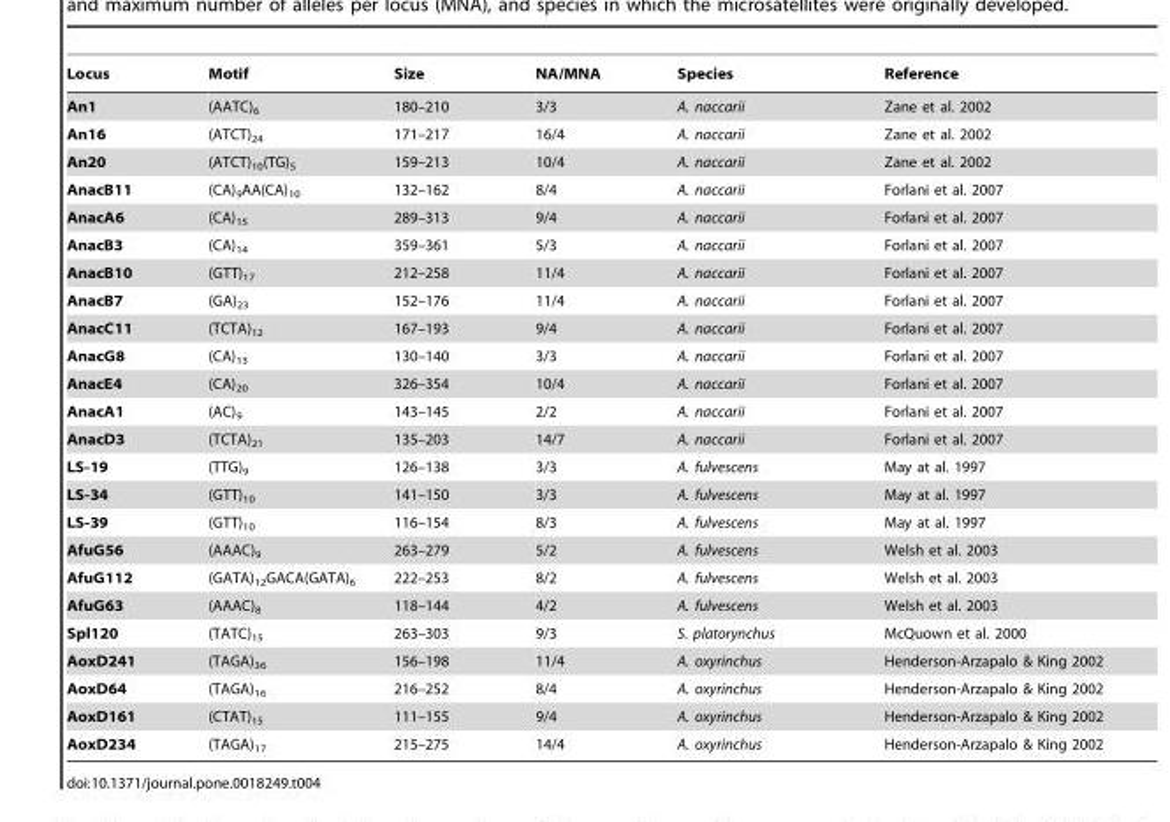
<table><thead><tr><td>Locus</td><td>Motif</td><td>Size</td><td>NA/MNA</td><td>Species</td><td>Reference</td></tr></thead><tbody><tr><td>An1</td><td>(AATC)<sub>6</sub></td><td>180–210</td><td>3/3</td><td>A. naccarii</td><td>Zane et al. 2002</td></tr><tr><td>An16</td><td>(ATCT)<sub>24</sub></td><td>171–217</td><td>16/4</td><td>A. naccarii</td><td>Zane et al. 2002</td></tr><tr><td>An20</td><td>(ATCT)<sub>10</sub>(TG)<sub>5</sub></td><td>159–213</td><td>10/4</td><td>A. naccarii</td><td>Zane et al. 2002</td></tr><tr><td>AnacB11</td><td>(CA)<sub>9</sub>AA(CA)<sub>10</sub></td><td>132–162</td><td>8/4</td><td>A. naccarii</td><td>Forlani et al. 2007</td></tr><tr><td>AnacA6</td><td>(CA)<sub>15</sub></td><td>289–313</td><td>9/4</td><td>A. naccarii</td><td>Forlani et al. 2007</td></tr><tr><td>AnacB3</td><td>(CA)<sub>14</sub></td><td>359–361</td><td>5/3</td><td>A. naccarii</td><td>Forlani et al. 2007</td></tr><tr><td>AnacB10</td><td>(GTT)<sub>17</sub></td><td>212–258</td><td>11/4</td><td>A. naccarii</td><td>Forlani et al. 2007</td></tr><tr><td>AnacB7</td><td>(GA)<sub>23</sub></td><td>152–176</td><td>11/4</td><td>A. naccarii</td><td>Forlani et al. 2007</td></tr><tr><td>AnacC11</td><td>(TCTA)<sub>12</sub></td><td>167–193</td><td>9/4</td><td>A. naccarii</td><td>Forlani et al. 2007</td></tr><tr><td>AnacG8</td><td>(CA)<sub>13</sub></td><td>130–140</td><td>3/3</td><td>A. naccarii</td><td>Forlani et al. 2007</td></tr><tr><td>AnacE4</td><td>(CA)<sub>20</sub></td><td>326–354</td><td>10/4</td><td>A. naccarii</td><td>Forlani et al. 2007</td></tr><tr><td>AnacA1</td><td>(AC)<sub>9</sub></td><td>143–145</td><td>2/2</td><td>A. naccarii</td><td>Forlani et al. 2007</td></tr><tr><td>AnacD3</td><td>(TCTA)<sub>21</sub></td><td>135–203</td><td>14/7</td><td>A. naccarii</td><td>Forlani et al. 2007</td></tr><tr><td>LS-19</td><td>(TTG)<sub>9</sub></td><td>126–138</td><td>3/3</td><td>A. fulvescens</td><td>May at al. 1997</td></tr><tr><td>LS-34</td><td>(GTT)<sub>10</sub></td><td>141–150</td><td>3/3</td><td>A. fulvescens</td><td>May at al. 1997</td></tr><tr><td>LS-39</td><td>(GTT)<sub>10</sub></td><td>116–154</td><td>8/3</td><td>A. fulvescens</td><td>May at al. 1997</td></tr><tr><td>AfuG56</td><td>(AAAC)<sub>9</sub></td><td>263–279</td><td>5/2</td><td>A. fulvescens</td><td>Welsh et al. 2003</td></tr><tr><td>AfuG112</td><td>(GATA)<sub>12</sub>GACA(GATA)<sub>6</sub></td><td>222–253</td><td>8/2</td><td>A. fulvescens</td><td>Welsh et al. 2003</td></tr><tr><td>AfuG63</td><td>(AAAC)<sub>8</sub></td><td>118–144</td><td>4/2</td><td>A. fulvescens</td><td>Welsh et al. 2003</td></tr><tr><td>Spl120</td><td>(TATC)<sub>15</sub></td><td>263–303</td><td>9/3</td><td>S. platorynchus</td><td>McQuown et al. 2000</td></tr><tr><td>AoxD241</td><td>(TAGA)<sub>36</sub></td><td>156–198</td><td>11/4</td><td>A. oxyrinchus</td><td>Henderson-Arzapalo &amp; King 2002</td></tr><tr><td>AoxD64</td><td>(TAGA)<sub>16</sub></td><td>216–252</td><td>8/4</td><td>A. oxyrinchus</td><td>Henderson-Arzapalo &amp; King 2002</td></tr><tr><td>AoxD161</td><td>(CTAT)<sub>15</sub></td><td>111–155</td><td>9/4</td><td>A. oxyrinchus</td><td>Henderson-Arzapalo &amp; King 2002</td></tr><tr><td>AoxD234</td><td>(TAGA)<sub>17</sub></td><td>215–275</td><td>14/4</td><td>A. oxyrinchus</td><td>Henderson-Arzapalo &amp; King 2002</td></tr></tbody></table>